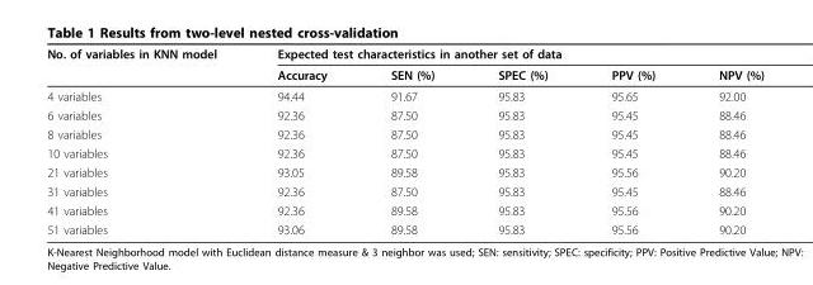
<table><thead><tr><td rowspan="2">No. of variables in KNN model</td><td colspan="5">Expected test characteristics in another set of data</td></tr><tr><td>Accuracy</td><td>SEN (%)</td><td>SPEC (%)</td><td>PPV (%)</td><td>NPV (%)</td></tr></thead><tbody><tr><td>4 variables</td><td>94.44</td><td>91.67</td><td>95.83</td><td>95.65</td><td>92.00</td></tr><tr><td>6 variables</td><td>92.36</td><td>87.50</td><td>95.83</td><td>95.45</td><td>88.46</td></tr><tr><td>8 variables</td><td>92.36</td><td>87.50</td><td>95.83</td><td>95.45</td><td>88.46</td></tr><tr><td>10 variables</td><td>92.36</td><td>87.50</td><td>95.83</td><td>95.45</td><td>88.46</td></tr><tr><td>21 variables</td><td>93.05</td><td>89.58</td><td>95.83</td><td>95.56</td><td>90.20</td></tr><tr><td>31 variables</td><td>92.36</td><td>87.50</td><td>95.83</td><td>95.45</td><td>88.46</td></tr><tr><td>41 variables</td><td>92.36</td><td>89.58</td><td>95.83</td><td>95.56</td><td>90.20</td></tr><tr><td>51 variables</td><td>93.06</td><td>89.58</td><td>95.83</td><td>95.56</td><td>90.20</td></tr></tbody></table>